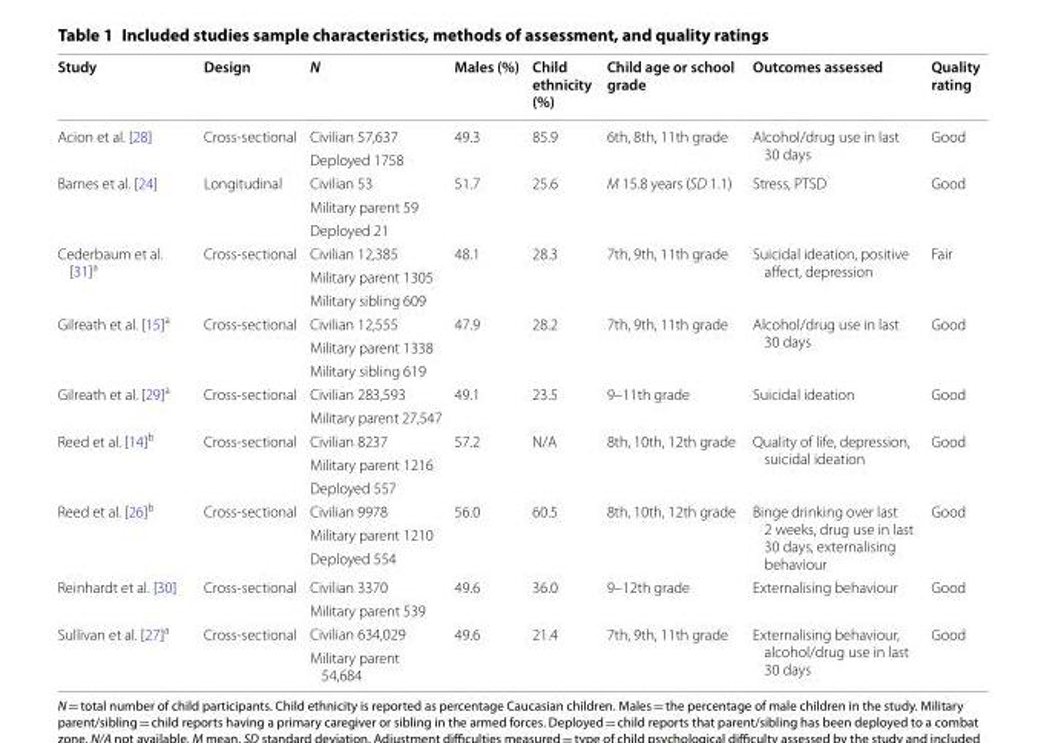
<table><thead><tr><td>Study</td><td>Design</td><td>N</td><td>Males (%)</td><td>Child ethnicity (%)</td><td>Child age or school grade</td><td>Outcomes assessed</td><td>Quality rating</td></tr></thead><tbody><tr><td rowspan="2">Acion et al. [28]</td><td rowspan="2">Cross-sectional</td><td>Civilian 57,637</td><td rowspan="2">49.3</td><td rowspan="2">85.9</td><td rowspan="2">6th, 8th, 11th grade</td><td rowspan="2">Alcohol/drug use in last 30 days</td><td rowspan="2">Good</td></tr><tr><td>Deployed 1758</td></tr><tr><td rowspan="3">Barnes et al. [24]</td><td rowspan="3">Longitudinal</td><td>Civilian 53</td><td rowspan="3">51.7</td><td rowspan="3">25.6</td><td rowspan="3">M 15.8 years (SD 1.1)</td><td rowspan="3">Stress, PTSD</td><td rowspan="3">Good</td></tr><tr><td>Military parent 59</td></tr><tr><td>Deployed 21</td></tr><tr><td rowspan="3">Cederbaum et al. [31]<sup>a</sup></td><td rowspan="3">Cross-sectional</td><td>Civilian 12,385</td><td rowspan="3">48.1</td><td rowspan="3">28.3</td><td rowspan="3">7th, 9th, 11th grade</td><td rowspan="3">Suicidal ideation, positive affect, depression</td><td rowspan="3">Fair</td></tr><tr><td>Military parent 1305</td></tr><tr><td>Military sibling 609</td></tr><tr><td rowspan="3">Gilreath et al. [15]<sup>a</sup></td><td rowspan="3">Cross-sectional</td><td>Civilian 12,555</td><td rowspan="3">47.9</td><td rowspan="3">28.2</td><td rowspan="3">7th, 9th, 11th grade</td><td rowspan="3">Alcohol/drug use in last 30 days</td><td rowspan="3">Good</td></tr><tr><td>Military parent 1338</td></tr><tr><td>Military sibling 619</td></tr><tr><td rowspan="2">Gilreath et al. [29]<sup>a</sup></td><td rowspan="2">Cross-sectional</td><td>Civilian 283,593</td><td rowspan="2">49.1</td><td rowspan="2">23.5</td><td rowspan="2">9–11th grade</td><td rowspan="2">Suicidal ideation</td><td rowspan="2">Good</td></tr><tr><td>Military parent 27,547</td></tr><tr><td rowspan="3">Reed et al. [14]<sup>b</sup></td><td rowspan="3">Cross-sectional</td><td>Civilian 8237</td><td rowspan="3">57.2</td><td rowspan="3">N/A</td><td rowspan="3">8th, 10th, 12th grade</td><td rowspan="3">Quality of life, depression, suicidal ideation</td><td rowspan="3">Good</td></tr><tr><td>Military parent 1216</td></tr><tr><td>Deployed 557</td></tr><tr><td rowspan="3">Reed et al. [26]<sup>b</sup></td><td rowspan="3">Cross-sectional</td><td>Civilian 9978</td><td rowspan="3">56.0</td><td rowspan="3">60.5</td><td rowspan="3">8th, 10th, 12th grade</td><td rowspan="3">Binge drinking over last 2 weeks, drug use in last 30 days, externalising behaviour</td><td rowspan="3">Good</td></tr><tr><td>Military parent 1210</td></tr><tr><td>Deployed 554</td></tr><tr><td rowspan="2">Reinhardt et al. [30]</td><td rowspan="2">Cross-sectional</td><td>Civilian 3370</td><td rowspan="2">49.6</td><td rowspan="2">36.0</td><td rowspan="2">9–12th grade</td><td rowspan="2">Externalising behaviour</td><td rowspan="2">Good</td></tr><tr><td>Military parent 539</td></tr><tr><td rowspan="2">Sullivan et al. [27]<sup>a</sup></td><td rowspan="2">Cross-sectional</td><td>Civilian 634,029</td><td rowspan="2">49.6</td><td rowspan="2">21.4</td><td rowspan="2">7th, 9th, 11th grade</td><td rowspan="2">Externalising behaviour, alcohol/drug use in last 30 days</td><td rowspan="2">Good</td></tr><tr><td>Military parent 54,684</td></tr></tbody></table>